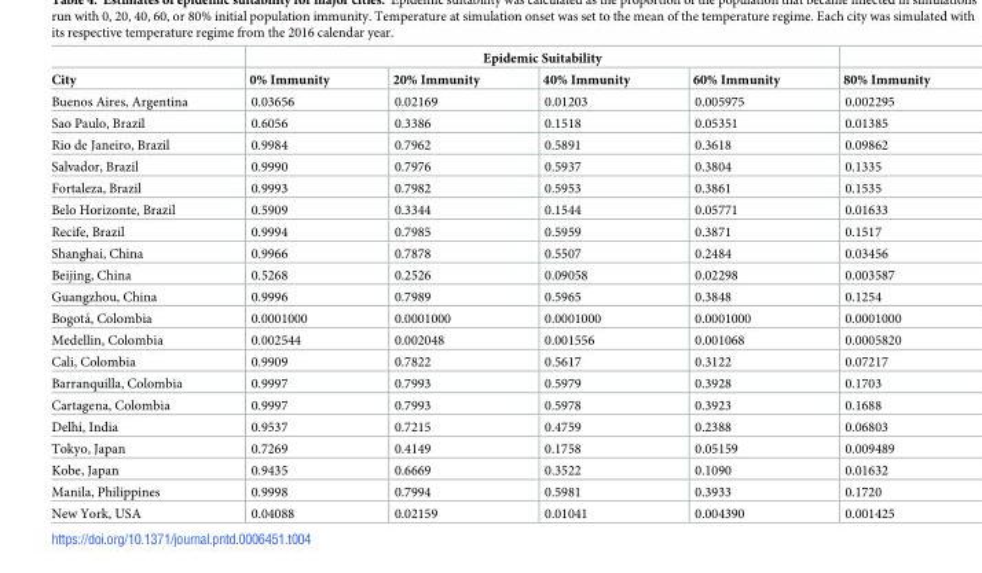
<table><thead><tr><td rowspan="2">City</td><td colspan="4">Epidemic Suitability</td><td rowspan="2">80% Immunity</td></tr><tr><td>0% Immunity</td><td>20% Immunity</td><td>40% Immunity</td><td>60% Immunity</td></tr></thead><tbody><tr><td>Buenos Aires, Argentina</td><td>0.03656</td><td>0.02169</td><td>0.01203</td><td>0.005975</td><td>0.002295</td></tr><tr><td>Sao Paulo, Brazil</td><td>0.6056</td><td>0.3386</td><td>0.1518</td><td>0.05351</td><td>0.01385</td></tr><tr><td>Rio de Janeiro, Brazil</td><td>0.9984</td><td>0.7962</td><td>0.5891</td><td>0.3618</td><td>0.09862</td></tr><tr><td>Salvador, Brazil</td><td>0.9990</td><td>0.7976</td><td>0.5937</td><td>0.3804</td><td>0.1335</td></tr><tr><td>Fortaleza, Brazil</td><td>0.9993</td><td>0.7982</td><td>0.5953</td><td>0.3861</td><td>0.1535</td></tr><tr><td>Belo Horizonte, Brazil</td><td>0.5909</td><td>0.3344</td><td>0.1544</td><td>0.05771</td><td>0.01633</td></tr><tr><td>Recife, Brazil</td><td>0.9994</td><td>0.7985</td><td>0.5959</td><td>0.3871</td><td>0.1517</td></tr><tr><td>Shanghai, China</td><td>0.9966</td><td>0.7878</td><td>0.5507</td><td>0.2484</td><td>0.03456</td></tr><tr><td>Beijing, China</td><td>0.5268</td><td>0.2526</td><td>0.09058</td><td>0.02298</td><td>0.003587</td></tr><tr><td>Guangzhou, China</td><td>0.9996</td><td>0.7989</td><td>0.5965</td><td>0.3848</td><td>0.1254</td></tr><tr><td>Bogota´, Colombia</td><td>0.0001000</td><td>0.0001000</td><td>0.0001000</td><td>0.0001000</td><td>0.0001000</td></tr><tr><td>Medellin, Colombia</td><td>0.002544</td><td>0.002048</td><td>0.001556</td><td>0.001068</td><td>0.0005820</td></tr><tr><td>Cali, Colombia</td><td>0.9909</td><td>0.7822</td><td>0.5617</td><td>0.3122</td><td>0.07217</td></tr><tr><td>Barranquilla, Colombia</td><td>0.9997</td><td>0.7993</td><td>0.5979</td><td>0.3928</td><td>0.1703</td></tr><tr><td>Cartagena, Colombia</td><td>0.9997</td><td>0.7993</td><td>0.5978</td><td>0.3923</td><td>0.1688</td></tr><tr><td>Delhi, India</td><td>0.9537</td><td>0.7215</td><td>0.4759</td><td>0.2388</td><td>0.06803</td></tr><tr><td>Tokyo, Japan</td><td>0.7269</td><td>0.4149</td><td>0.1758</td><td>0.05159</td><td>0.009489</td></tr><tr><td>Kobe, Japan</td><td>0.9435</td><td>0.6669</td><td>0.3522</td><td>0.1090</td><td>0.01632</td></tr><tr><td>Manila, Philippines</td><td>0.9998</td><td>0.7994</td><td>0.5981</td><td>0.3933</td><td>0.1720</td></tr><tr><td>New York, USA</td><td>0.04088</td><td>0.02159</td><td>0.01041</td><td>0.004390</td><td>0.001425</td></tr></tbody></table>